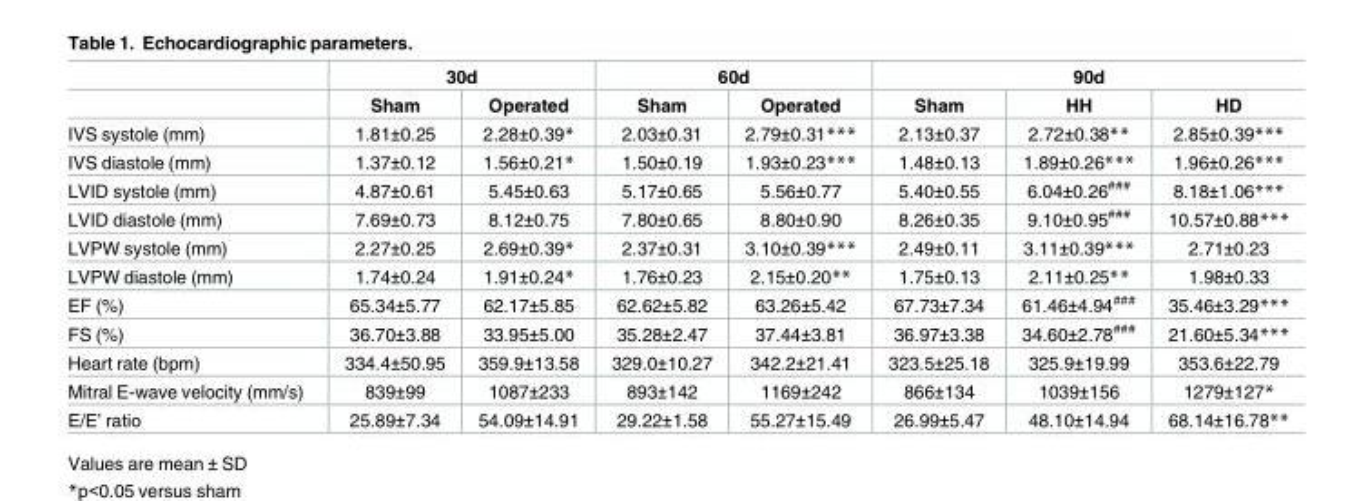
<table><thead><tr><td rowspan="2"></td><td colspan="2">30d</td><td colspan="2">60d</td><td colspan="3">90d</td></tr><tr><td>Sham</td><td>Operated</td><td>Sham</td><td>Operated</td><td>Sham</td><td>HH</td><td>HD</td></tr></thead><tbody><tr><td>IVS systole (mm)</td><td>1.81±0.25</td><td>2.28±0.39*</td><td>2.03±0.31</td><td>2.79±0.31***</td><td>2.13±0.37</td><td>2.72±0.38**</td><td>2.85±0.39***</td></tr><tr><td>IVS diastole (mm)</td><td>1.37±0.12</td><td>1.56±0.21*</td><td>1.50±0.19</td><td>1.93±0.23***</td><td>1.48±0.13</td><td>1.89±0.26***</td><td>1.96±0.26***</td></tr><tr><td>LVID systole (mm)</td><td>4.87±0.61</td><td>5.45±0.63</td><td>5.17±0.65</td><td>5.56±0.77</td><td>5.40±0.55</td><td>6.04±0.26<sup>###</sup></td><td>8.18±1.06***</td></tr><tr><td>LVID diastole (mm)</td><td>7.69±0.73</td><td>8.12±0.75</td><td>7.80±0.65</td><td>8.80±0.90</td><td>8.26±0.35</td><td>9.10±0.95<sup>###</sup></td><td>10.57±0.88***</td></tr><tr><td>LVPW systole (mm)</td><td>2.27±0.25</td><td>2.69±0.39*</td><td>2.37±0.31</td><td>3.10±0.39***</td><td>2.49±0.11</td><td>3.11±0.39***</td><td>2.71±0.23</td></tr><tr><td>LVPW diastole (mm)</td><td>1.74±0.24</td><td>1.91±0.24*</td><td>1.76±0.23</td><td>2.15±0.20**</td><td>1.75±0.13</td><td>2.11±0.25**</td><td>1.98±0.33</td></tr><tr><td>EF (%)</td><td>65.34±5.77</td><td>62.17±5.85</td><td>62.62±5.82</td><td>63.26±5.42</td><td>67.73±7.34</td><td>61.46±4.94<sup>###</sup></td><td>35.46±3.29***</td></tr><tr><td>FS (%)</td><td>36.70±3.88</td><td>33.95±5.00</td><td>35.28±2.47</td><td>37.44±3.81</td><td>36.97±3.38</td><td>34.60±2.78<sup>###</sup></td><td>21.60±5.34***</td></tr><tr><td>Heart rate (bpm)</td><td>334.4±50.95</td><td>359.9±13.58</td><td>329.0±10.27</td><td>342.2±21.41</td><td>323.5±25.18</td><td>325.9±19.99</td><td>353.6±22.79</td></tr><tr><td>Mitral E-wave velocity (mm/s)</td><td>839±99</td><td>1087±233</td><td>893±142</td><td>1169±242</td><td>866±134</td><td>1039±156</td><td>1279±127*</td></tr><tr><td>E/E’ ratio</td><td>25.89±7.34</td><td>54.09±14.91</td><td>29.22±1.58</td><td>55.27±15.49</td><td>26.99±5.47</td><td>48.10±14.94</td><td>68.14±16.78**</td></tr></tbody></table>